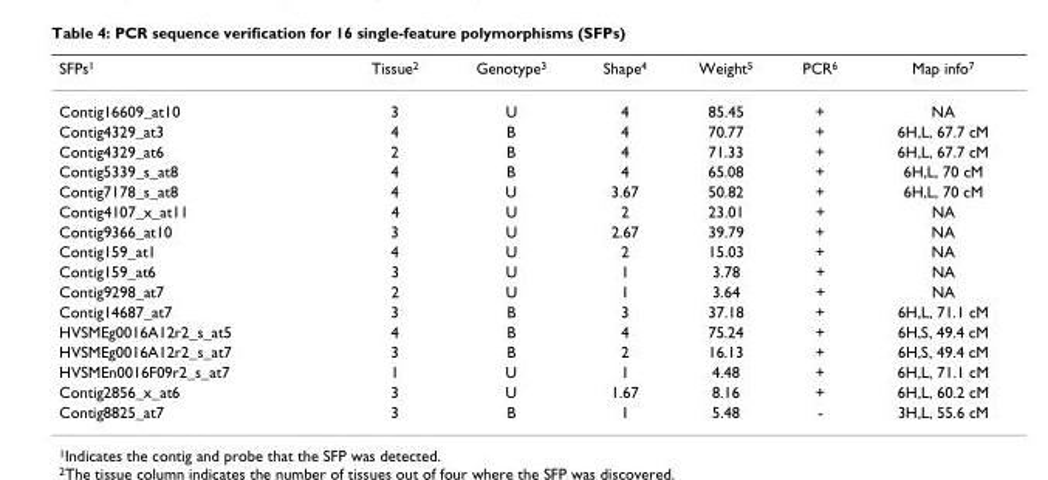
<table><thead><tr><td>SFPs<sup>1</sup></td><td>Tissue<sup>2</sup></td><td>Genotype<sup>3</sup></td><td>Shape<sup>4</sup></td><td>Weight<sup>5</sup></td><td>PCR<sup>6</sup></td><td>Map info<sup>7</sup></td></tr></thead><tbody><tr><td>Contig16609_at10</td><td>3</td><td>U</td><td>4</td><td>85.45</td><td>+</td><td>NA</td></tr><tr><td>Contig4329_at3</td><td>4</td><td>B</td><td>4</td><td>70.77</td><td>+</td><td>6H,L, 67.7 cM</td></tr><tr><td>Contig4329_at6</td><td>2</td><td>B</td><td>4</td><td>71.33</td><td>+</td><td>6H,L, 67.7 cM</td></tr><tr><td>Contig5339_s_at8</td><td>4</td><td>B</td><td>4</td><td>65.08</td><td>+</td><td>6H,L, 70 cM</td></tr><tr><td>Contig7178_s_at8</td><td>4</td><td>U</td><td>3.67</td><td>50.82</td><td>+</td><td>6H,L, 70 cM</td></tr><tr><td>Contig4107_x_at11</td><td>4</td><td>U</td><td>2</td><td>23.01</td><td>+</td><td>NA</td></tr><tr><td>Contig9366_at10</td><td>3</td><td>U</td><td>2.67</td><td>39.79</td><td>+</td><td>NA</td></tr><tr><td>Contig159_at1</td><td>4</td><td>U</td><td>2</td><td>15.03</td><td>+</td><td>NA</td></tr><tr><td>Contig159_at6</td><td>3</td><td>U</td><td>1</td><td>3.78</td><td>+</td><td>NA</td></tr><tr><td>Contig9298_at7</td><td>2</td><td>U</td><td>1</td><td>3.64</td><td>+</td><td>NA</td></tr><tr><td>Contig14687_at7</td><td>3</td><td>B</td><td>3</td><td>37.18</td><td>+</td><td>6H,L, 71.1 cM</td></tr><tr><td>HVSMEg0016A12r2_s_at5</td><td>4</td><td>B</td><td>4</td><td>75.24</td><td>+</td><td>6H,S, 49.4 cM</td></tr><tr><td>HVSMEg0016A12r2_s_at7</td><td>3</td><td>B</td><td>2</td><td>16.13</td><td>+</td><td>6H,S, 49.4 cM</td></tr><tr><td>HVSMEn0016F09r2_s_at7</td><td>1</td><td>U</td><td>1</td><td>4.48</td><td>+</td><td>6H,L, 71.1 cM</td></tr><tr><td>Contig2856_x_at6</td><td>3</td><td>U</td><td>1.67</td><td>8.16</td><td>+</td><td>6H,L, 60.2 cM</td></tr><tr><td>Contig8825_at7</td><td>3</td><td>B</td><td>1</td><td>5.48</td><td>-</td><td>3H,L, 55.6 cM</td></tr></tbody></table>